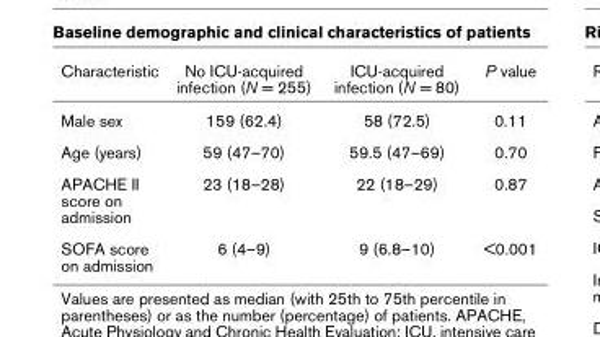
<table><thead><tr><td>Characteristic</td><td>No ICU-acquired infection (N = 255)</td><td>ICU-acquired infection (N = 80)</td><td>P value</td></tr></thead><tbody><tr><td>Male sex</td><td>159 (62.4)</td><td>58 (72.5)</td><td>0.11</td></tr><tr><td>Age (years)</td><td>59 (47–70)</td><td>59.5 (47–69)</td><td>0.70</td></tr><tr><td>APACHE II score on admission</td><td>23 (18–28)</td><td>22 (18–29)</td><td>0.87</td></tr><tr><td>SOFA score on admission</td><td>6 (4–9)</td><td>9 (6.8–10)</td><td>&lt;0.001</td></tr></tbody></table>